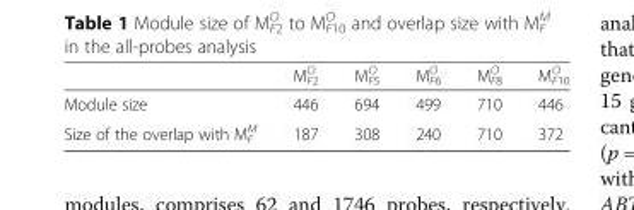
<table><thead><tr><td></td><td>M<sub>F2</sub> <sup>O</sup></td><td>M<sub>F5</sub> <sup>O</sup></td><td>M<sub>F6</sub> <sup>O</sup></td><td>M<sub>F8</sub> <sup>O</sup></td><td>M<sub>F10</sub> <sup>O</sup></td></tr></thead><tbody><tr><td>Module size</td><td>446</td><td>694</td><td>499</td><td>710</td><td>446</td></tr><tr><td>Size of the overlap with M<sub>F</sub> <sup>M</sup></td><td>187</td><td>308</td><td>240</td><td>710</td><td>372</td></tr></tbody></table>